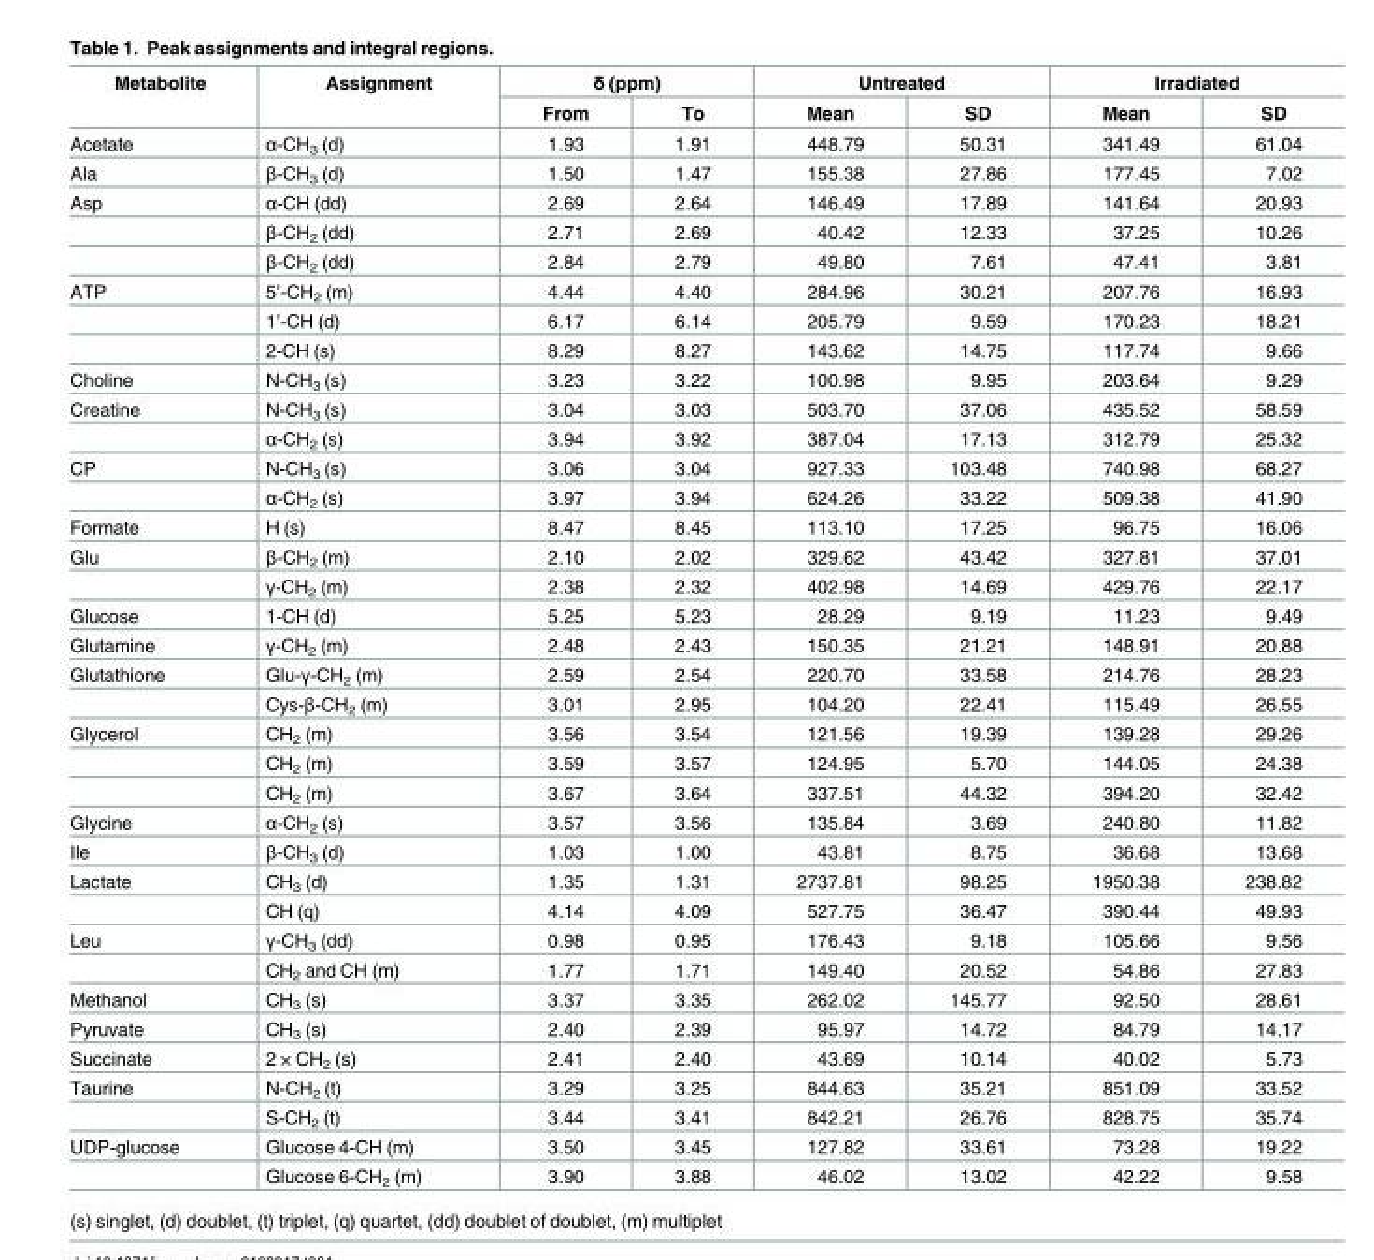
<table><thead><tr><td rowspan="2">Metabolite</td><td rowspan="2">Assignment</td><td colspan="2">δ (ppm)</td><td colspan="2">Untreated</td><td colspan="2">Irradiated</td></tr><tr><td>From</td><td>To</td><td>Mean</td><td>SD</td><td>Mean</td><td>SD</td></tr></thead><tbody><tr><td>Acetate</td><td>α-CH<sub>3</sub> (d)</td><td>1.93</td><td>1.91</td><td>448.79</td><td>50.31</td><td>341.49</td><td>61.04</td></tr><tr><td>Ala</td><td>β-CH<sub>3</sub> (d)</td><td>1.50</td><td>1.47</td><td>155.38</td><td>27.86</td><td>177.45</td><td>7.02</td></tr><tr><td rowspan="3">Asp</td><td>α-CH (dd)</td><td>2.69</td><td>2.64</td><td>146.49</td><td>17.89</td><td>141.64</td><td>20.93</td></tr><tr><td>β-CH<sub>2</sub> (dd)</td><td>2.71</td><td>2.69</td><td>40.42</td><td>12.33</td><td>37.25</td><td>10.26</td></tr><tr><td>β-CH<sub>2</sub> (dd)</td><td>2.84</td><td>2.79</td><td>49.80</td><td>7.61</td><td>47.41</td><td>3.81</td></tr><tr><td rowspan="3">ATP</td><td>5’-CH<sub>2</sub> (m)</td><td>4.44</td><td>4.40</td><td>284.96</td><td>30.21</td><td>207.76</td><td>16.93</td></tr><tr><td>1’-CH (d)</td><td>6.17</td><td>6.14</td><td>205.79</td><td>9.59</td><td>170.23</td><td>18.21</td></tr><tr><td>2-CH (s)</td><td>8.29</td><td>8.27</td><td>143.62</td><td>14.75</td><td>117.74</td><td>9.66</td></tr><tr><td>Choline</td><td>N-CH<sub>3</sub> (s)</td><td>3.23</td><td>3.22</td><td>100.98</td><td>9.95</td><td>203.64</td><td>9.29</td></tr><tr><td rowspan="2">Creatine</td><td>N-CH<sub>3</sub> (s)</td><td>3.04</td><td>3.03</td><td>503.70</td><td>37.06</td><td>435.52</td><td>58.59</td></tr><tr><td>α-CH<sub>2</sub> (s)</td><td>3.94</td><td>3.92</td><td>387.04</td><td>17.13</td><td>312.79</td><td>25.32</td></tr><tr><td rowspan="2">CP</td><td>N-CH<sub>3</sub> (s)</td><td>3.06</td><td>3.04</td><td>927.33</td><td>103.48</td><td>740.98</td><td>68.27</td></tr><tr><td>α-CH<sub>2</sub> (s)</td><td>3.97</td><td>3.94</td><td>624.26</td><td>33.22</td><td>509.38</td><td>41.90</td></tr><tr><td>Formate</td><td>H (s)</td><td>8.47</td><td>8.45</td><td>113.10</td><td>17.25</td><td>96.75</td><td>16.06</td></tr><tr><td rowspan="2">Glu</td><td>β-CH<sub>2</sub> (m)</td><td>2.10</td><td>2.02</td><td>329.62</td><td>43.42</td><td>327.81</td><td>37.01</td></tr><tr><td>γ-CH<sub>2</sub> (m)</td><td>2.38</td><td>2.32</td><td>402.98</td><td>14.69</td><td>429.76</td><td>22.17</td></tr><tr><td>Glucose</td><td>1-CH (d)</td><td>5.25</td><td>5.23</td><td>28.29</td><td>9.19</td><td>11.23</td><td>9.49</td></tr><tr><td>Glutamine</td><td>γ-CH<sub>2</sub> (m)</td><td>2.48</td><td>2.43</td><td>150.35</td><td>21.21</td><td>148.91</td><td>20.88</td></tr><tr><td rowspan="2">Glutathione</td><td>Glu-γ-CH<sub>2</sub> (m)</td><td>2.59</td><td>2.54</td><td>220.70</td><td>33.58</td><td>214.76</td><td>28.23</td></tr><tr><td>Cys-β-CH<sub>2</sub> (m)</td><td>3.01</td><td>2.95</td><td>104.20</td><td>22.41</td><td>115.49</td><td>26.55</td></tr><tr><td rowspan="3">Glycerol</td><td>CH<sub>2</sub> (m)</td><td>3.56</td><td>3.54</td><td>121.56</td><td>19.39</td><td>139.28</td><td>29.26</td></tr><tr><td>CH<sub>2</sub> (m)</td><td>3.59</td><td>3.57</td><td>124.95</td><td>5.70</td><td>144.05</td><td>24.38</td></tr><tr><td>CH<sub>2</sub> (m)</td><td>3.67</td><td>3.64</td><td>337.51</td><td>44.32</td><td>394.20</td><td>32.42</td></tr><tr><td>Glycine</td><td>α-CH<sub>2</sub> (s)</td><td>3.57</td><td>3.56</td><td>135.84</td><td>3.69</td><td>240.80</td><td>11.82</td></tr><tr><td>Ile</td><td>β-CH<sub>3</sub> (d)</td><td>1.03</td><td>1.00</td><td>43.81</td><td>8.75</td><td>36.68</td><td>13.68</td></tr><tr><td rowspan="2">Lactate</td><td>CH<sub>3</sub> (d)</td><td>1.35</td><td>1.31</td><td>2737.81</td><td>98.25</td><td>1950.38</td><td>238.82</td></tr><tr><td>CH (q)</td><td>4.14</td><td>4.09</td><td>527.75</td><td>36.47</td><td>390.44</td><td>49.93</td></tr><tr><td rowspan="2">Leu</td><td>γ-CH<sub>3</sub> (dd)</td><td>0.98</td><td>0.95</td><td>176.43</td><td>9.18</td><td>105.66</td><td>9.56</td></tr><tr><td>CH<sub>2</sub> and CH (m)</td><td>1.77</td><td>1.71</td><td>149.40</td><td>20.52</td><td>54.86</td><td>27.83</td></tr><tr><td>Methanol</td><td>CH<sub>3</sub> (s)</td><td>3.37</td><td>3.35</td><td>262.02</td><td>145.77</td><td>92.50</td><td>28.61</td></tr><tr><td>Pyruvate</td><td>CH<sub>3</sub> (s)</td><td>2.40</td><td>2.39</td><td>95.97</td><td>14.72</td><td>84.79</td><td>14.17</td></tr><tr><td>Succinate</td><td>2 × CH<sub>2</sub> (s)</td><td>2.41</td><td>2.40</td><td>43.69</td><td>10.14</td><td>40.02</td><td>5.73</td></tr><tr><td rowspan="2">Taurine</td><td>N-CH<sub>2</sub> (t)</td><td>3.29</td><td>3.25</td><td>844.63</td><td>35.21</td><td>851.09</td><td>33.52</td></tr><tr><td>S-CH<sub>2</sub> (t)</td><td>3.44</td><td>3.41</td><td>842.21</td><td>26.76</td><td>828.75</td><td>35.74</td></tr><tr><td rowspan="2">UDP-glucose</td><td>Glucose 4-CH (m)</td><td>3.50</td><td>3.45</td><td>127.82</td><td>33.61</td><td>73.28</td><td>19.22</td></tr><tr><td>Glucose 6-CH<sub>2</sub> (m)</td><td>3.90</td><td>3.88</td><td>46.02</td><td>13.02</td><td>42.22</td><td>9.58</td></tr></tbody></table>